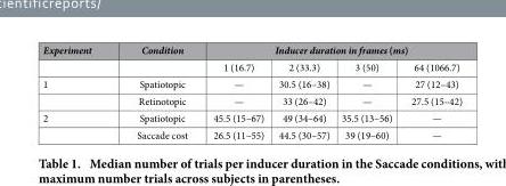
<table><thead><tr><td rowspan="2">Experiment</td><td rowspan="2">Condition</td><td colspan="4">Inducer duration in frames (ms)</td></tr><tr><td>1 (16.7)</td><td>2 (33.3)</td><td>3 (50)</td><td>64 (1066.7)</td></tr></thead><tbody><tr><td rowspan="2">1</td><td>Spatiotopic</td><td>—</td><td>30.5 (16–38)</td><td>—</td><td>27 (12–43)</td></tr><tr><td>Retinotopic</td><td>—</td><td>33 (26–42)</td><td>—</td><td>27.5 (15–42)</td></tr><tr><td rowspan="2">2</td><td>Spatiotopic</td><td>45.5 (15–67)</td><td>49 (34–64)</td><td>35.5 (13–56)</td><td>—</td></tr><tr><td>Saccade cost</td><td>26.5 (11–55)</td><td>44.5 (30–57)</td><td>39 (19–60)</td><td>—</td></tr></tbody></table>